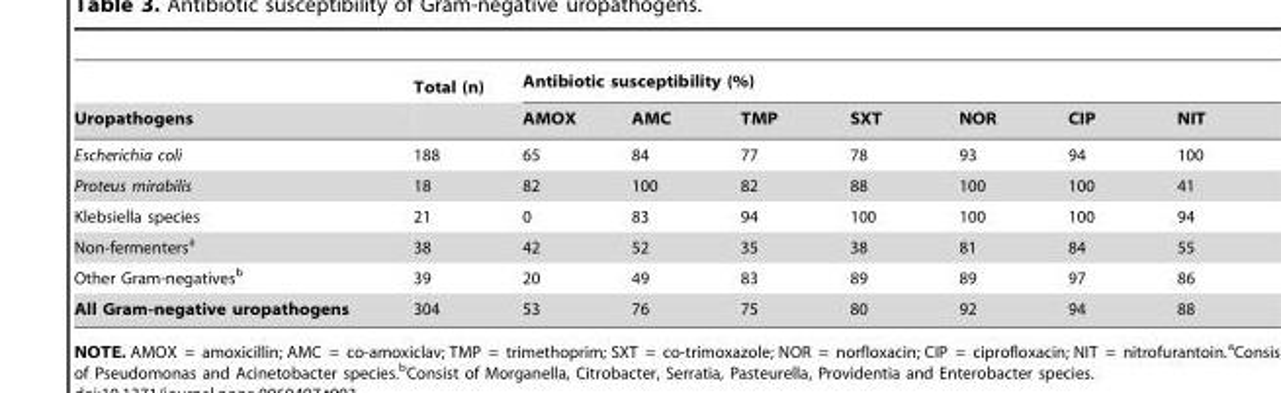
<table><thead><tr><td rowspan="2">Uropathogens</td><td rowspan="2">Total (n)</td><td colspan="7">Antibiotic susceptibility (%)</td></tr><tr><td>AMOX</td><td>AMC</td><td>TMP</td><td>SXT</td><td>NOR</td><td>CIP</td><td>NIT</td></tr></thead><tbody><tr><td>Escherichia coli</td><td>188</td><td>65</td><td>84</td><td>77</td><td>78</td><td>93</td><td>94</td><td>100</td></tr><tr><td>Proteus mirabilis</td><td>18</td><td>82</td><td>100</td><td>82</td><td>88</td><td>100</td><td>100</td><td>41</td></tr><tr><td>Klebsiella species</td><td>21</td><td>0</td><td>83</td><td>94</td><td>100</td><td>100</td><td>100</td><td>94</td></tr><tr><td>Non-fermenters<sup>a</sup></td><td>38</td><td>42</td><td>52</td><td>35</td><td>38</td><td>81</td><td>84</td><td>55</td></tr><tr><td>Other Gram-negatives<sup>b</sup></td><td>39</td><td>20</td><td>49</td><td>83</td><td>89</td><td>89</td><td>97</td><td>86</td></tr><tr><td>All Gram-negative uropathogens</td><td>304</td><td>53</td><td>76</td><td>75</td><td>80</td><td>92</td><td>94</td><td>88</td></tr></tbody></table>